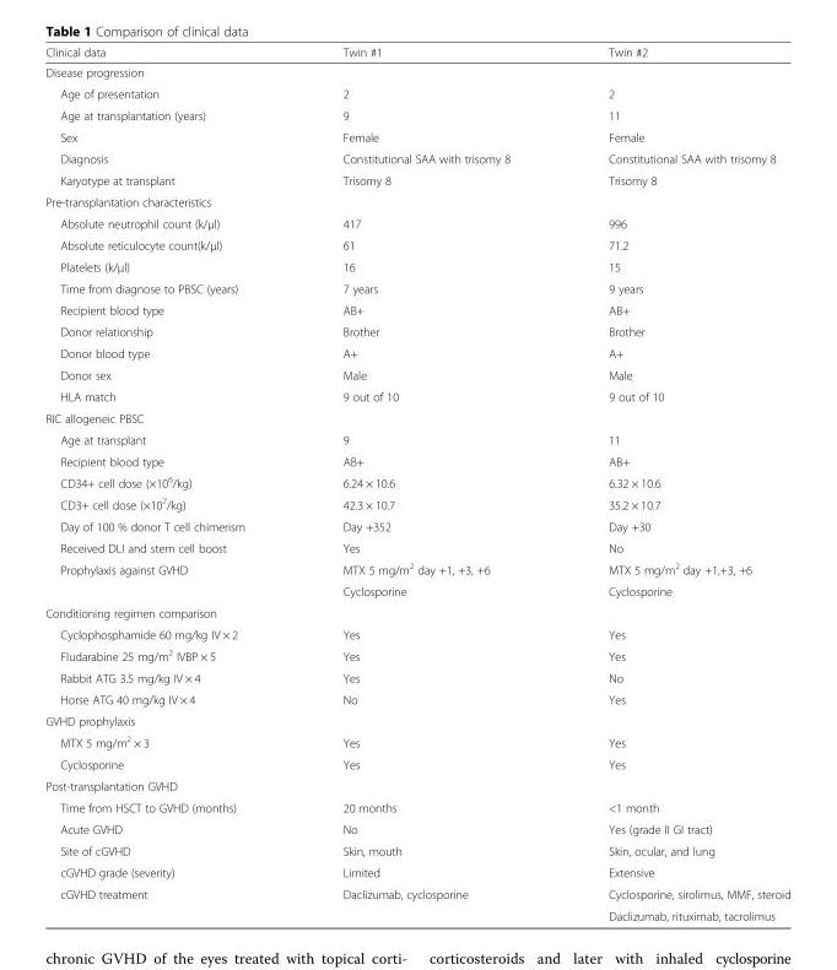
<table><thead><tr><td>Clinical data</td><td>Twin #1</td><td>Twin #2</td></tr></thead><tbody><tr><td colspan="3">Disease progression</td></tr><tr><td>Age of presentation</td><td>2</td><td>2</td></tr><tr><td>Age at transplantation (years)</td><td>9</td><td>11</td></tr><tr><td>Sex</td><td>Female</td><td>Female</td></tr><tr><td>Diagnosis</td><td>Constitutional SAA with trisomy 8</td><td>Constitutional SAA with trisomy 8</td></tr><tr><td>Karyotype at transplant</td><td>Trisomy 8</td><td>Trisomy 8</td></tr><tr><td colspan="3">Pre-transplantation characteristics</td></tr><tr><td>Absolute neutrophil count (k/μl)</td><td>417</td><td>996</td></tr><tr><td>Absolute reticulocyte count(k/μl)</td><td>61</td><td>71.2</td></tr><tr><td>Platelets (k/μl)</td><td>16</td><td>15</td></tr><tr><td>Time from diagnose to PBSC (years)</td><td>7 years</td><td>9 years</td></tr><tr><td>Recipient blood type</td><td>AB+</td><td>AB+</td></tr><tr><td>Donor relationship</td><td>Brother</td><td>Brother</td></tr><tr><td>Donor blood type</td><td>A+</td><td>A+</td></tr><tr><td>Donor sex</td><td>Male</td><td>Male</td></tr><tr><td>HLA match</td><td>9 out of 10</td><td>9 out of 10</td></tr><tr><td colspan="3">RIC allogeneic PBSC</td></tr><tr><td>Age at transplant</td><td>9</td><td>11</td></tr><tr><td>Recipient blood type</td><td>AB+</td><td>AB+</td></tr><tr><td>CD34+ cell dose (×10<sup>6</sup>/kg)</td><td>6.24 × 10.6</td><td>6.32 × 10.6</td></tr><tr><td>CD3+ cell dose (×10<sup>7</sup>/kg)</td><td>42.3 × 10.7</td><td>35.2 × 10.7</td></tr><tr><td>Day of 100 % donor T cell chimerism</td><td>Day +352</td><td>Day +30</td></tr><tr><td>Received DLI and stem cell boost</td><td>Yes</td><td>No</td></tr><tr><td rowspan="2">Prophylaxis against GVHD</td><td>MTX 5 mg/m<sup>2</sup> day +1, +3, +6</td><td>MTX 5 mg/m<sup>2</sup> day +1,+3, +6</td></tr><tr><td>Cyclosporine</td><td>Cyclosporine</td></tr><tr><td colspan="3">Conditioning regimen comparison</td></tr><tr><td>Cyclophosphamide 60 mg/kg IV × 2</td><td>Yes</td><td>Yes</td></tr><tr><td>Fludarabine 25 mg/m<sup>2</sup> IVBP × 5</td><td>Yes</td><td>Yes</td></tr><tr><td>Rabbit ATG 3.5 mg/kg IV × 4</td><td>Yes</td><td>No</td></tr><tr><td>Horse ATG 40 mg/kg IV × 4</td><td>No</td><td>Yes</td></tr><tr><td colspan="3">GVHD prophylaxis</td></tr><tr><td>MTX 5 mg/m<sup>2</sup> × 3</td><td>Yes</td><td>Yes</td></tr><tr><td>Cyclosporine</td><td>Yes</td><td>Yes</td></tr><tr><td colspan="3">Post-transplantation GVHD</td></tr><tr><td>Time from HSCT to GVHD (months)</td><td>20 months</td><td>&lt;1 month</td></tr><tr><td>Acute GVHD</td><td>No</td><td>Yes (grade II GI tract)</td></tr><tr><td>Site of cGVHD</td><td>Skin, mouth</td><td>Skin, ocular, and lung</td></tr><tr><td>cGVHD grade (severity)</td><td>Limited</td><td>Extensive</td></tr><tr><td rowspan="2">cGVHD treatment</td><td>Daclizumab, cyclosporine</td><td>Cyclosporine, sirolimus, MMF, steroid</td></tr><tr><td></td><td>Daclizumab, rituximab, tacrolimus</td></tr></tbody></table>